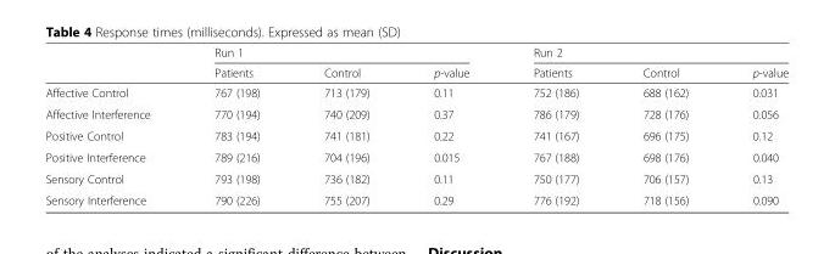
<table><thead><tr><td rowspan="2"></td><td colspan="3">Run 1</td><td colspan="3">Run 2</td></tr><tr><td>Patients</td><td>Control</td><td>p-value</td><td>Patients</td><td>Control</td><td>p-value</td></tr></thead><tbody><tr><td>Affective Control</td><td>767 (198)</td><td>713 (179)</td><td>0.11</td><td>752 (186)</td><td>688 (162)</td><td>0.031</td></tr><tr><td>Affective Interference</td><td>770 (194)</td><td>740 (209)</td><td>0.37</td><td>786 (179)</td><td>728 (176)</td><td>0.056</td></tr><tr><td>Positive Control</td><td>783 (194)</td><td>741 (181)</td><td>0.22</td><td>741 (167)</td><td>696 (175)</td><td>0.12</td></tr><tr><td>Positive Interference</td><td>789 (216)</td><td>704 (196)</td><td>0.015</td><td>767 (188)</td><td>698 (176)</td><td>0.040</td></tr><tr><td>Sensory Control</td><td>793 (198)</td><td>736 (182)</td><td>0.11</td><td>750 (177)</td><td>706 (157)</td><td>0.13</td></tr><tr><td>Sensory Interference</td><td>790 (226)</td><td>755 (207)</td><td>0.29</td><td>776 (192)</td><td>718 (156)</td><td>0.090</td></tr></tbody></table>